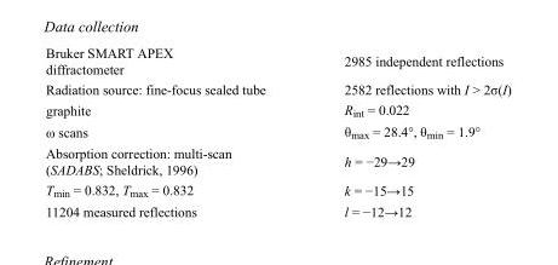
<table><tbody><tr><td>Bruker SMART APEX diffractometer</td><td>2985 independent reflections</td></tr><tr><td>Radiation source: fine-focus sealed tube</td><td>2582 reflections with I &gt; 2σ(I)</td></tr><tr><td>graphite</td><td>R<sub>int</sub> = 0.022</td></tr><tr><td>ω scans</td><td>θ<sub>max</sub> = 28.4°, θ<sub>min</sub> = 1.9°</td></tr><tr><td>Absorption correction: multi-scan (SADABS; Sheldrick, 1996)</td><td>h = −29→29</td></tr><tr><td>T<sub>min</sub> = 0.832, T<sub>max</sub> = 0.832</td><td>k = −15→15</td></tr><tr><td>11204 measured reflections</td><td>l = −12→12</td></tr></tbody></table>